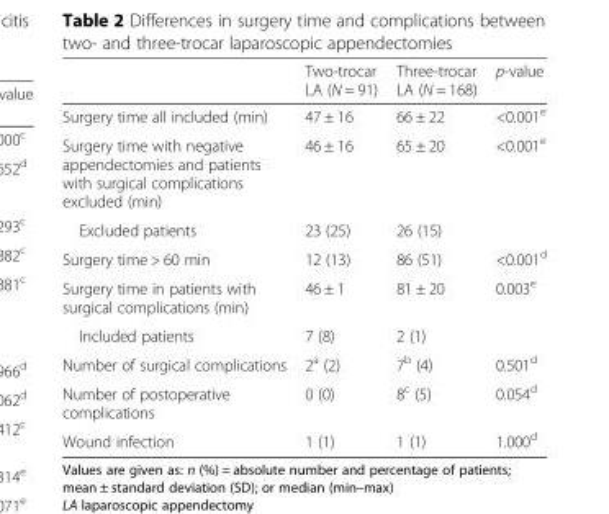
<table><thead><tr><td></td><td>Two-trocar LA (N = 91)</td><td>Three-trocar LA (N = 168)</td><td>p-value</td></tr></thead><tbody><tr><td>Surgery time all included (min)</td><td>47 ± 16</td><td>66 ± 22</td><td>&lt;0.001<sup>e</sup></td></tr><tr><td>Surgery time with negative appendectomies and patients with surgical complications excluded (min)</td><td>46 ± 16</td><td>65 ± 20</td><td>&lt;0.001<sup>e</sup></td></tr><tr><td>Excluded patients</td><td>23 (25)</td><td>26 (15)</td><td></td></tr><tr><td>Surgery time &gt; 60 min</td><td>12 (13)</td><td>86 (51)</td><td>&lt;0.001<sup>d</sup></td></tr><tr><td>Surgery time in patients with surgical complications (min)</td><td>46 ± 1</td><td>81 ± 20</td><td>0.003<sup>e</sup></td></tr><tr><td>Included patients</td><td>7 (8)</td><td>2 (1)</td><td></td></tr><tr><td>Number of surgical complications</td><td>2<sup>a</sup> (2)</td><td>7<sup>b</sup> (4)</td><td>0.501<sup>d</sup></td></tr><tr><td>Number of postoperative complications</td><td>0 (0)</td><td>8<sup>c</sup> (5)</td><td>0.054<sup>d</sup></td></tr><tr><td>Wound infection</td><td>1 (1)</td><td>1 (1)</td><td>1.000<sup>d</sup></td></tr></tbody></table>